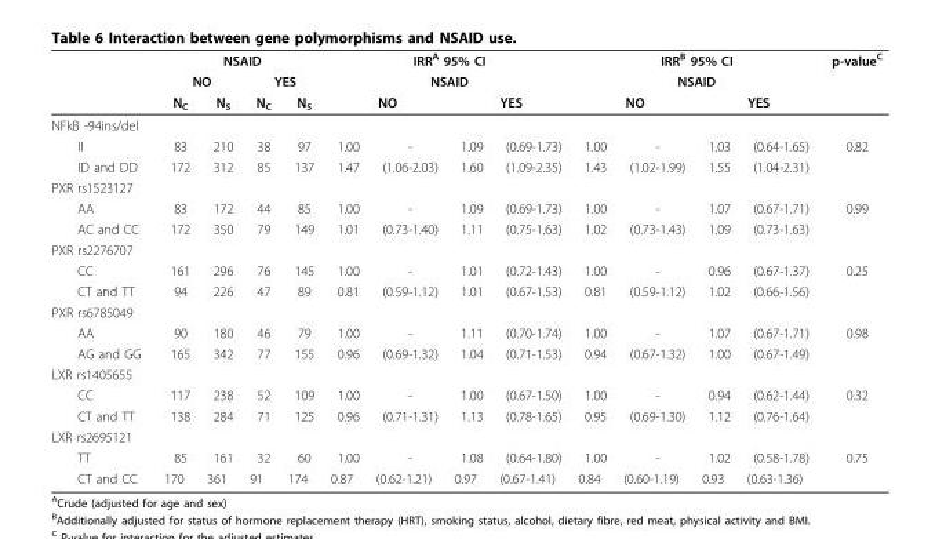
<table><thead><tr><td rowspan="4">NFkB -94ins/del</td><td colspan="4">NSAID</td><td rowspan="2" colspan="4">IRR<sup>A</sup> 95% CI NSAID</td><td rowspan="2" colspan="4">IRR<sup>B</sup> 95% CI NSAID</td><td rowspan="4">p-value<sup>C</sup></td></tr><tr><td colspan="2">NO</td><td colspan="2">YES</td></tr><tr><td rowspan="2">N<sub>C</sub></td><td rowspan="2">N<sub>S</sub></td><td rowspan="2">N<sub>C</sub></td><td rowspan="2">N<sub>S</sub></td><td colspan="2">NO</td><td colspan="2">YES</td><td colspan="2">NO</td><td colspan="2">YES</td></tr><tr><td></td><td></td><td></td><td></td><td></td><td></td><td></td><td></td></tr></thead><tbody><tr><td>II</td><td>83</td><td>210</td><td>38</td><td>97</td><td>1.00</td><td>-</td><td>1.09</td><td>(0.69-1.73)</td><td>1.00</td><td>-</td><td>1.03</td><td>(0.64-1.65)</td><td>0.82</td></tr><tr><td>ID and DD</td><td>172</td><td>312</td><td>85</td><td>137</td><td>1.47</td><td>(1.06-2.03)</td><td>1.60</td><td>(1.09-2.35)</td><td>1.43</td><td>(1.02-1.99)</td><td>1.55</td><td>(1.04-2.31)</td><td></td></tr><tr><td colspan="14">PXR rs1523127</td></tr><tr><td>AA</td><td>83</td><td>172</td><td>44</td><td>85</td><td>1.00</td><td>-</td><td>1.09</td><td>(0.69-1.73)</td><td>1.00</td><td>-</td><td>1.07</td><td>(0.67-1.71)</td><td>0.99</td></tr><tr><td>AC and CC</td><td>172</td><td>350</td><td>79</td><td>149</td><td>1.01</td><td>(0.73-1.40)</td><td>1.11</td><td>(0.75-1.63)</td><td>1.02</td><td>(0.73-1.43)</td><td>1.09</td><td>(0.73-1.63)</td><td></td></tr><tr><td colspan="14">PXR rs2276707</td></tr><tr><td>CC</td><td>161</td><td>296</td><td>76</td><td>145</td><td>1.00</td><td>-</td><td>1.01</td><td>(0.72-1.43)</td><td>1.00</td><td>-</td><td>0.96</td><td>(0.67-1.37)</td><td>0.25</td></tr><tr><td>CT and TT</td><td>94</td><td>226</td><td>47</td><td>89</td><td>0.81</td><td>(0.59-1.12)</td><td>1.01</td><td>(0.67-1.53)</td><td>0.81</td><td>(0.59-1.12)</td><td>1.02</td><td>(0.66-1.56)</td><td></td></tr><tr><td colspan="14">PXR rs6785049</td></tr><tr><td>AA</td><td>90</td><td>180</td><td>46</td><td>79</td><td>1.00</td><td>-</td><td>1.11</td><td>(0.70-1.74)</td><td>1.00</td><td>-</td><td>1.07</td><td>(0.67-1.71)</td><td>0.98</td></tr><tr><td>AG and GG</td><td>165</td><td>342</td><td>77</td><td>155</td><td>0.96</td><td>(0.69-1.32)</td><td>1.04</td><td>(0.71-1.53)</td><td>0.94</td><td>(0.67-1.32)</td><td>1.00</td><td>(0.67-1.49)</td><td></td></tr><tr><td colspan="14">LXR rs1405655</td></tr><tr><td>CC</td><td>117</td><td>238</td><td>52</td><td>109</td><td>1.00</td><td>-</td><td>1.00</td><td>(0.67-1.50)</td><td>1.00</td><td>-</td><td>0.94</td><td>(0.62-1.44)</td><td>0.32</td></tr><tr><td>CT and TT</td><td>138</td><td>284</td><td>71</td><td>125</td><td>0.96</td><td>(0.71-1.31)</td><td>1.13</td><td>(0.78-1.65)</td><td>0.95</td><td>(0.69-1.30)</td><td>1.12</td><td>(0.76-1.64)</td><td></td></tr><tr><td colspan="14">LXR rs2695121</td></tr><tr><td>TT</td><td>85</td><td>161</td><td>32</td><td>60</td><td>1.00</td><td>-</td><td>1.08</td><td>(0.64-1.80)</td><td>1.00</td><td>-</td><td>1.02</td><td>(0.58-1.78)</td><td>0.75</td></tr><tr><td>CT and CC</td><td>170</td><td>361</td><td>91</td><td>174</td><td>0.87</td><td>(0.62-1.21)</td><td>0.97</td><td>(0.67-1.41)</td><td>0.84</td><td>(0.60-1.19)</td><td>0.93</td><td>(0.63-1.36)</td><td></td></tr></tbody></table>